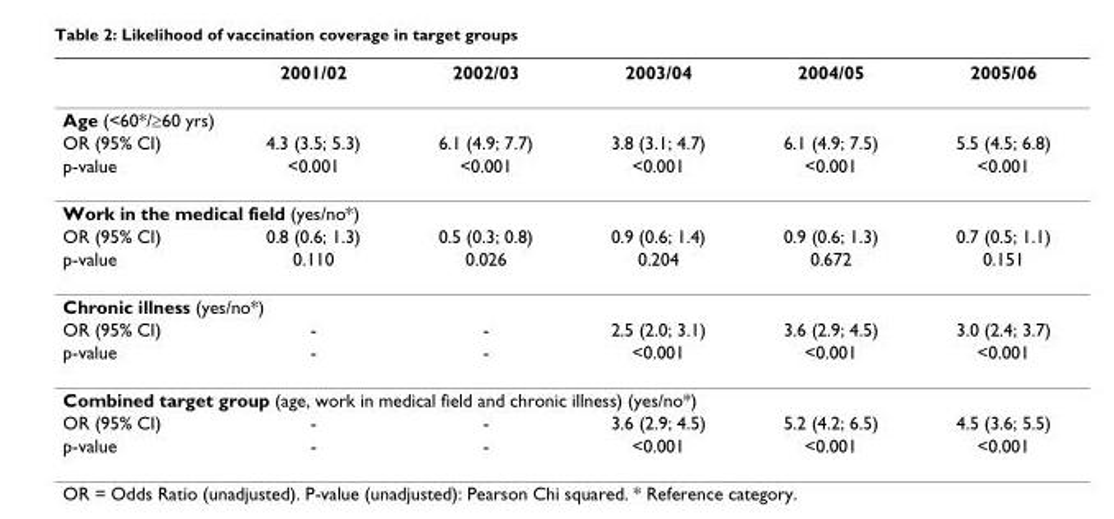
<table><thead><tr><td></td><td>2001/02</td><td>2002/03</td><td>2003/04</td><td>2004/05</td><td>2005/06</td></tr></thead><tbody><tr><td colspan="6">Age (&lt;60*/≥60 yrs)</td></tr><tr><td>OR (95% CI)</td><td>4.3 (3.5; 5.3)</td><td>6.1 (4.9; 7.7)</td><td>3.8 (3.1; 4.7)</td><td>6.1 (4.9; 7.5)</td><td>5.5 (4.5; 6.8)</td></tr><tr><td>p-value</td><td>&lt;0.001</td><td>&lt;0.001</td><td>&lt;0.001</td><td>&lt;0.001</td><td>&lt;0.001</td></tr><tr><td colspan="6">Work in the medical field (yes/no*)</td></tr><tr><td>OR (95% CI)</td><td>0.8 (0.6; 1.3)</td><td>0.5 (0.3; 0.8)</td><td>0.9 (0.6; 1.4)</td><td>0.9 (0.6; 1.3)</td><td>0.7 (0.5; 1.1)</td></tr><tr><td>p-value</td><td>0.110</td><td>0.026</td><td>0.204</td><td>0.672</td><td>0.151</td></tr><tr><td colspan="6">Chronic illness (yes/no*)</td></tr><tr><td>OR (95% CI)</td><td>-</td><td>-</td><td>2.5 (2.0; 3.1)</td><td>3.6 (2.9; 4.5)</td><td>3.0 (2.4; 3.7)</td></tr><tr><td>p-value</td><td>-</td><td>-</td><td>&lt;0.001</td><td>&lt;0.001</td><td>&lt;0.001</td></tr><tr><td colspan="6">Combined target group (age, work in medical field and chronic illness) (yes/no*)</td></tr><tr><td>OR (95% CI)</td><td>-</td><td>-</td><td>3.6 (2.9; 4.5)</td><td>5.2 (4.2; 6.5)</td><td>4.5 (3.6; 5.5)</td></tr><tr><td>p-value</td><td>-</td><td>-</td><td>&lt;0.001</td><td>&lt;0.001</td><td>&lt;0.001</td></tr></tbody></table>